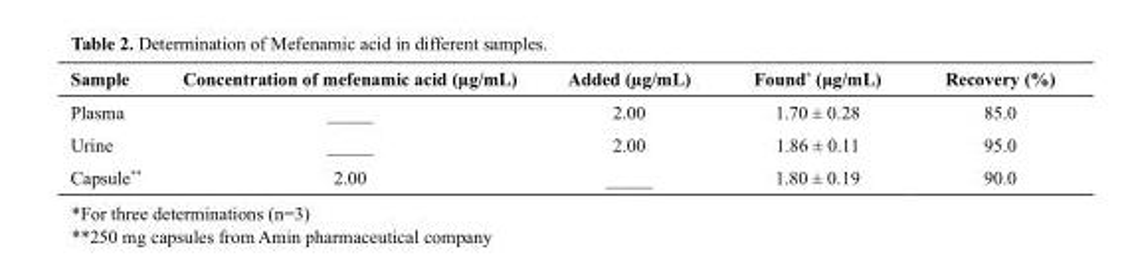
<table><thead><tr><td>Sample</td><td>Concentration of mefenamic acid (µg/mL)</td><td>Added (µg/mL)</td><td>Found* (µg/mL)</td><td>Recovery (%)</td></tr></thead><tbody><tr><td>Plasma</td><td>_____</td><td>2.00</td><td>1.70 ± 0.28</td><td>85.0</td></tr><tr><td>Urine</td><td>_____</td><td>2.00</td><td>1.86 ± 0.11</td><td>95.0</td></tr><tr><td>Capsule**</td><td>2.00</td><td>_____</td><td>1.80 ± 0.19</td><td>90.0</td></tr></tbody></table>